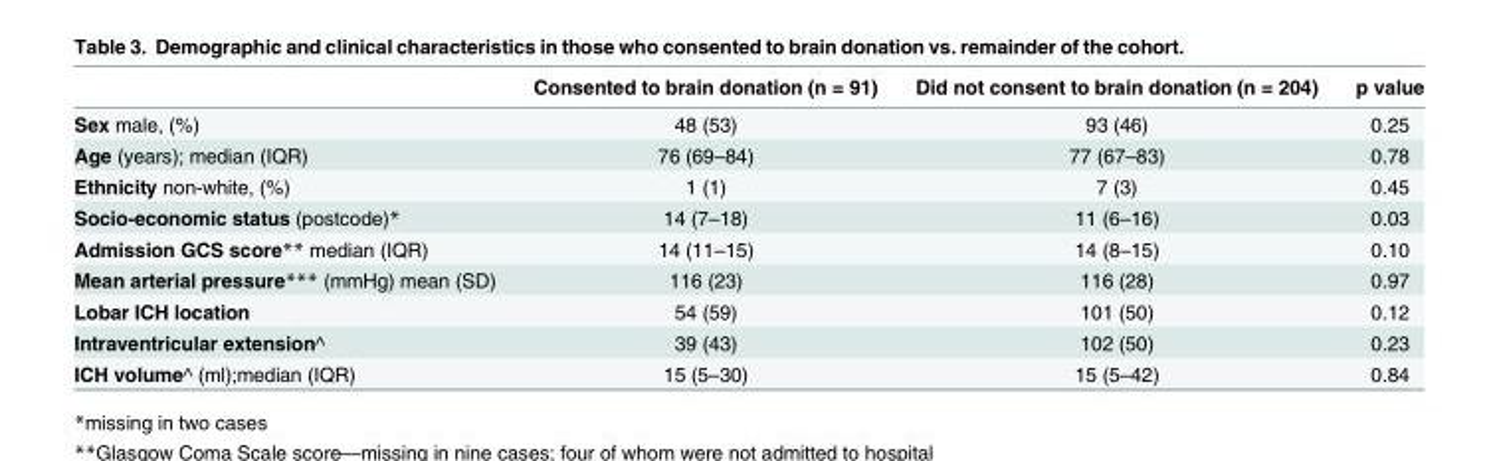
<table><thead><tr><td></td><td>Consented to brain donation (n = 91)</td><td>Did not consent to brain donation (n = 204)</td><td>p value</td></tr></thead><tbody><tr><td>Sex male, (%)</td><td>48 (53)</td><td>93 (46)</td><td>0.25</td></tr><tr><td>Age (years); median (IQR)</td><td>76 (69–84)</td><td>77 (67–83)</td><td>0.78</td></tr><tr><td>Ethnicity non-white, (%)</td><td>1 (1)</td><td>7 (3)</td><td>0.45</td></tr><tr><td>Socio-economic status (postcode)*</td><td>14 (7–18)</td><td>11 (6–16)</td><td>0.03</td></tr><tr><td>Admission GCS score** median (IQR)</td><td>14 (11–15)</td><td>14 (8–15)</td><td>0.10</td></tr><tr><td>Mean arterial pressure*** (mmHg) mean (SD)</td><td>116 (23)</td><td>116 (28)</td><td>0.97</td></tr><tr><td>Lobar ICH location</td><td>54 (59)</td><td>101 (50)</td><td>0.12</td></tr><tr><td>Intraventricular extension^</td><td>39 (43)</td><td>102 (50)</td><td>0.23</td></tr><tr><td>ICH volume^ (ml);median (IQR)</td><td>15 (5–30)</td><td>15 (5–42)</td><td>0.84</td></tr></tbody></table>